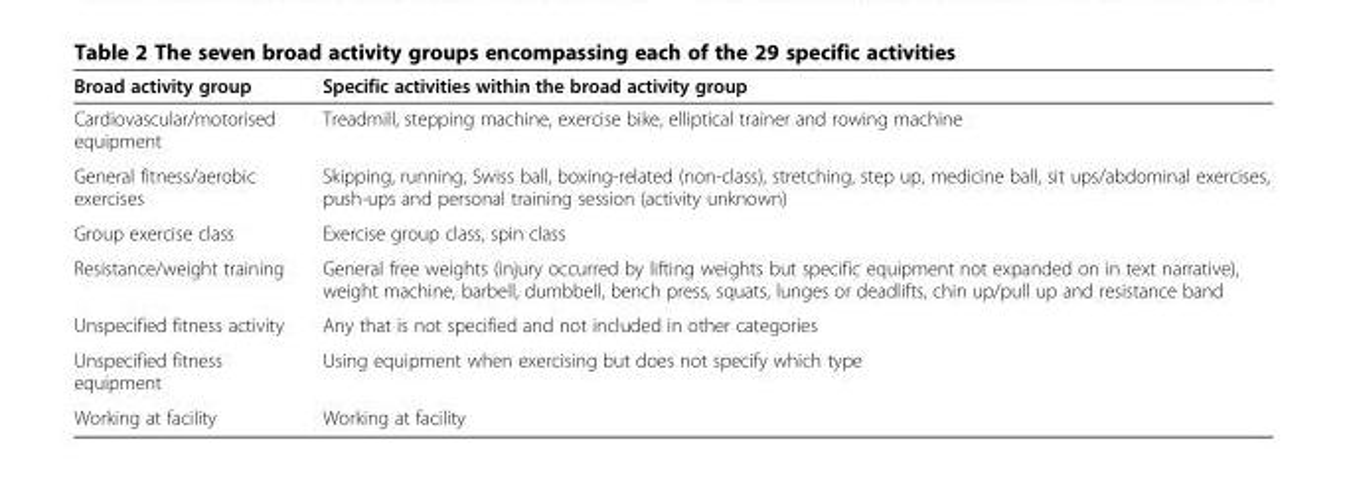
<table><thead><tr><td>Broad activity group</td><td>Specific activities within the broad activity group</td></tr></thead><tbody><tr><td>Cardiovascular/motorised equipment</td><td>Treadmill, stepping machine, exercise bike, elliptical trainer and rowing machine</td></tr><tr><td>General fitness/aerobic exercises</td><td>Skipping, running, Swiss ball, boxing-related (non-class), stretching, step up, medicine ball, sit ups/abdominal exercises, push-ups and personal training session (activity unknown)</td></tr><tr><td>Group exercise class</td><td>Exercise group class, spin class</td></tr><tr><td>Resistance/weight training</td><td>General free weights (injury occurred by lifting weights but specific equipment not expanded on in text narrative), weight machine, barbell, dumbbell, bench press, squats, lunges or deadlifts, chin up/pull up and resistance band</td></tr><tr><td>Unspecified fitness activity</td><td>Any that is not specified and not included in other categories</td></tr><tr><td>Unspecified fitness equipment</td><td>Using equipment when exercising but does not specify which type</td></tr><tr><td>Working at facility</td><td>Working at facility</td></tr></tbody></table>